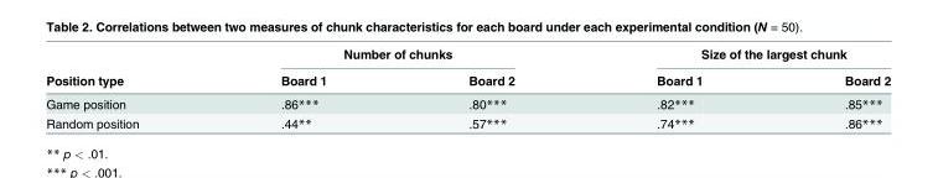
<table><thead><tr><td rowspan="2">Position type</td><td colspan="2">Number of chunks</td><td colspan="2">Size of the largest chunk</td></tr><tr><td>Board 1</td><td>Board 2</td><td>Board 1</td><td>Board 2</td></tr></thead><tbody><tr><td>Game position</td><td>.86***</td><td>.80***</td><td>.82***</td><td>.85***</td></tr><tr><td>Random position</td><td>.44**</td><td>.57***</td><td>.74***</td><td>.86***</td></tr></tbody></table>